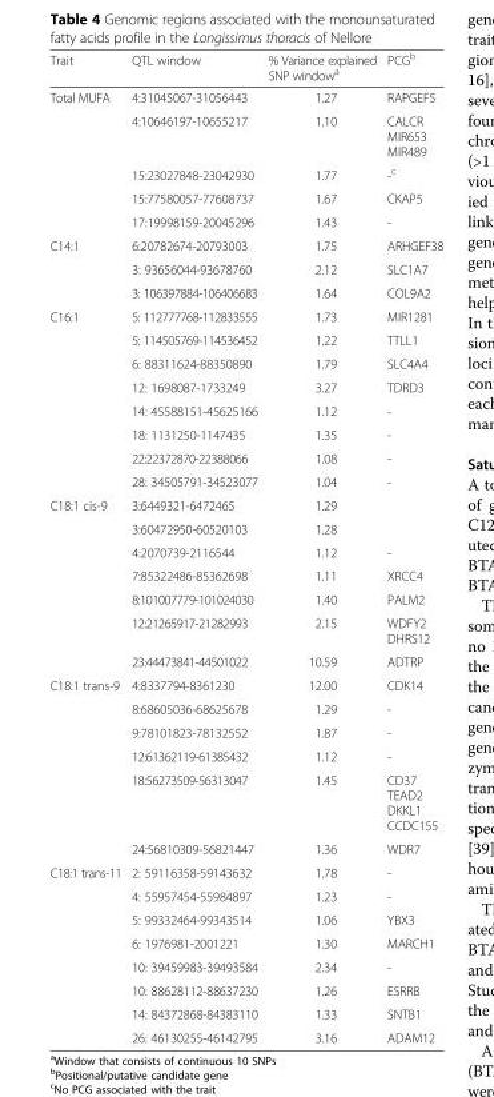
<table><thead><tr><td>Trait</td><td>QTL window</td><td>% Variance explained SNP window<sup>a</sup></td><td>PCG<sup>b</sup></td></tr></thead><tbody><tr><td rowspan="5">Total MUFA</td><td>4:31045067-31056443</td><td>1.27</td><td>RAPGEF5</td></tr><tr><td>4:10646197-10655217</td><td>1.10</td><td>CALCR MIR653 MIR489</td></tr><tr><td>15:23027848-23042930</td><td>1.77</td><td>-<sup>c</sup></td></tr><tr><td>15:77580057-77608737</td><td>1.67</td><td>CKAP5</td></tr><tr><td>17:19998159-20045296</td><td>1.43</td><td>-</td></tr><tr><td rowspan="3">C14:1</td><td>6:20782674-20793003</td><td>1.75</td><td>ARHGEF38</td></tr><tr><td>3: 93656044-93678760</td><td>2.12</td><td>SLC1A7</td></tr><tr><td>3: 106397884-106406683</td><td>1.64</td><td>COL9A2</td></tr><tr><td rowspan="8">C16:1</td><td>5: 112777768-112833555</td><td>1.73</td><td>MIR1281</td></tr><tr><td>5: 114505769-114536452</td><td>1.22</td><td>TTLL1</td></tr><tr><td>6: 88311624-88350890</td><td>1.79</td><td>SLC4A4</td></tr><tr><td>12: 1698087-1733249</td><td>3.27</td><td>TDRD3</td></tr><tr><td>14: 45588151-45625166</td><td>1.12</td><td>-</td></tr><tr><td>18: 1131250-1147435</td><td>1.35</td><td>-</td></tr><tr><td>22:22372870-22388066</td><td>1.08</td><td>-</td></tr><tr><td>28: 34505791-34523077</td><td>1.04</td><td>-</td></tr><tr><td rowspan="7">C18:1 cis-9</td><td>3:6449321-6472465</td><td>1.29</td><td></td></tr><tr><td>3:60472950-60520103</td><td>1.28</td><td></td></tr><tr><td>4:2070739-2116544</td><td>1.12</td><td>-</td></tr><tr><td>7:85322486-85362698</td><td>1.11</td><td>XRCC4</td></tr><tr><td>8:101007779-101024030</td><td>1.40</td><td>PALM2</td></tr><tr><td>12:21265917-21282993</td><td>2.15</td><td>WDFY2 DHRS12</td></tr><tr><td>23:44473841-44501022</td><td>10.59</td><td>ADTRP</td></tr><tr><td rowspan="6">C18:1 trans-9</td><td>4:8337794-8361230</td><td>12.00</td><td>CDK14</td></tr><tr><td>8:68605036-68625678</td><td>1.29</td><td>-</td></tr><tr><td>9:78101823-78132552</td><td>1.87</td><td>-</td></tr><tr><td>12:61362119-61385432</td><td>1.12</td><td>-</td></tr><tr><td>18:56273509-56313047</td><td>1.45</td><td>CD37 TEAD2 DKKL1 CCDC155</td></tr><tr><td>24:56810309-56821447</td><td>1.36</td><td>WDR7</td></tr><tr><td rowspan="8">C18:1 trans-11</td><td>2: 59116358-59143632</td><td>1.78</td><td>-</td></tr><tr><td>4: 55957454-55984897</td><td>1.23</td><td>-</td></tr><tr><td>5: 99332464-99343514</td><td>1.06</td><td>YBX3</td></tr><tr><td>6: 1976981-2001221</td><td>1.30</td><td>MARCH1</td></tr><tr><td>10: 39459983-39493584</td><td>2.34</td><td>-</td></tr><tr><td>10: 88628112-88637230</td><td>1.26</td><td>ESRRB</td></tr><tr><td>14: 84372868-84383110</td><td>1.33</td><td>SNTB1</td></tr><tr><td>26: 46130255-46142795</td><td>3.16</td><td>ADAM12</td></tr></tbody></table>